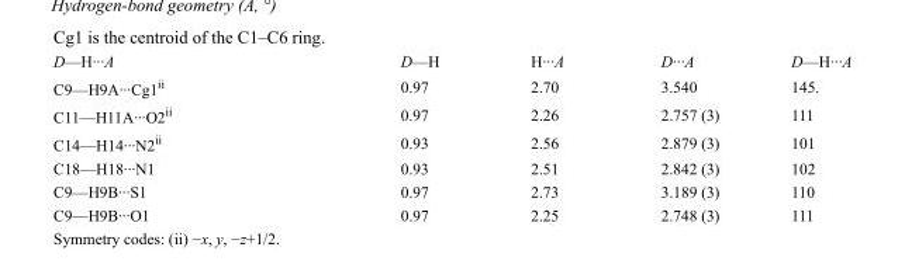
<table><tbody><tr><td>D—H···A</td><td>D—H</td><td>H···A</td><td>D···A</td><td>D—H···A</td></tr><tr><td>C9—H9A···Cg1<sup>ii</sup></td><td>0.97</td><td>2.70</td><td>3.540</td><td>145.</td></tr><tr><td>C11—H11A···O2<sup>ii</sup></td><td>0.97</td><td>2.26</td><td>2.757 (3)</td><td>111</td></tr><tr><td>C14—H14···N2<sup>ii</sup></td><td>0.93</td><td>2.56</td><td>2.879 (3)</td><td>101</td></tr><tr><td>C18—H18···N1</td><td>0.93</td><td>2.51</td><td>2.842 (3)</td><td>102</td></tr><tr><td>C9—H9B···S1</td><td>0.97</td><td>2.73</td><td>3.189 (3)</td><td>110</td></tr><tr><td>C9—H9B···O1</td><td>0.97</td><td>2.25</td><td>2.748 (3)</td><td>111</td></tr></tbody></table>